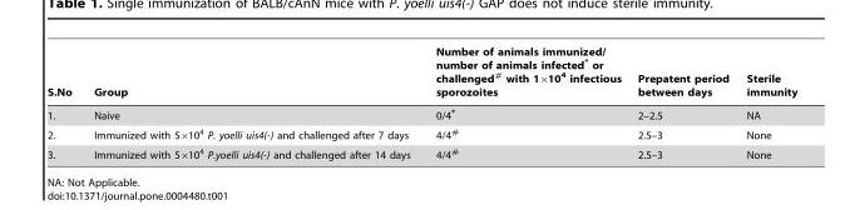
<table><thead><tr><td>S.No</td><td>Group</td><td>Number of animals immunized/ number of animals infected* or challenged<sup>#</sup> with 1×10<sup>4</sup> infectious sporozoites</td><td>Prepatent period between days</td><td>Sterile immunity</td></tr></thead><tbody><tr><td>1.</td><td>Naive</td><td>0/4*</td><td>2–2.5</td><td>NA</td></tr><tr><td>2.</td><td>Immunized with 5×10<sup>4</sup> P. yoelli uis4(-) and challenged after 7 days</td><td>4/4<sup>#</sup></td><td>2.5–3</td><td>None</td></tr><tr><td>3.</td><td>Immunized with 5×10<sup>4</sup> P.yoelli uis4(-) and challenged after 14 days</td><td>4/4<sup>#</sup></td><td>2.5–3</td><td>None</td></tr></tbody></table>